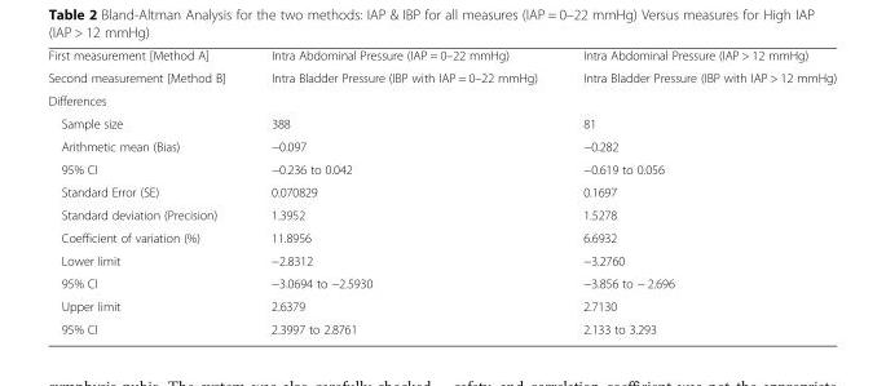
<table><tbody><tr><td>First measurement [Method A]</td><td>Intra Abdominal Pressure (IAP = 0–22 mmHg)</td><td>Intra Abdominal Pressure (IAP &gt; 12 mmHg)</td></tr><tr><td>Second measurement [Method B]</td><td>Intra Bladder Pressure (IBP with IAP = 0–22 mmHg)</td><td>Intra Bladder Pressure (IBP with IAP &gt; 12 mmHg)</td></tr><tr><td colspan="3">Differences</td></tr><tr><td>Sample size</td><td>388</td><td>81</td></tr><tr><td>Arithmetic mean (Bias)</td><td>−0.097</td><td>−0.282</td></tr><tr><td>95% CI</td><td>−0.236 to 0.042</td><td>−0.619 to 0.056</td></tr><tr><td>Standard Error (SE)</td><td>0.070829</td><td>0.1697</td></tr><tr><td>Standard deviation (Precision)</td><td>1.3952</td><td>1.5278</td></tr><tr><td>Coefficient of variation (%)</td><td>11.8956</td><td>6.6932</td></tr><tr><td>Lower limit</td><td>−2.8312</td><td>−3.2760</td></tr><tr><td>95% CI</td><td>−3.0694 to −2.5930</td><td>−3.856 to − 2.696</td></tr><tr><td>Upper limit</td><td>2.6379</td><td>2.7130</td></tr><tr><td>95% CI</td><td>2.3997 to 2.8761</td><td>2.133 to 3.293</td></tr></tbody></table>